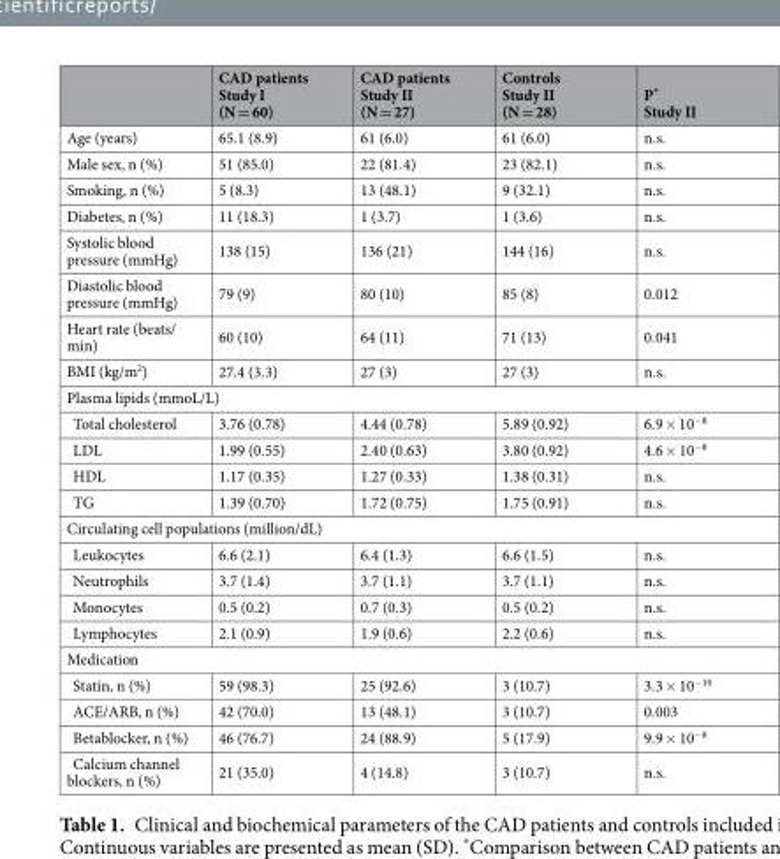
<table><thead><tr><td></td><td>CAD patients Study I (N = 60)</td><td>CAD patients Study II (N = 27)</td><td>Controls Study II (N = 28)</td><td>P* Study II</td></tr></thead><tbody><tr><td>Age (years)</td><td>65.1 (8.9)</td><td>61 (6.0)</td><td>61 (6.0)</td><td>n.s.</td></tr><tr><td>Male sex, n (%)</td><td>51 (85.0)</td><td>22 (81.4)</td><td>23 (82.1)</td><td>n.s.</td></tr><tr><td>Smoking, n (%)</td><td>5 (8.3)</td><td>13 (48.1)</td><td>9 (32.1)</td><td>n.s.</td></tr><tr><td>Diabetes, n (%)</td><td>11 (18.3)</td><td>1 (3.7)</td><td>1 (3.6)</td><td>n.s.</td></tr><tr><td>Systolic blood pressure (mmHg)</td><td>138 (15)</td><td>136 (21)</td><td>144 (16)</td><td>n.s.</td></tr><tr><td>Diastolic blood pressure (mmHg)</td><td>79 (9)</td><td>80 (10)</td><td>85 (8)</td><td>0.012</td></tr><tr><td>Heart rate (beats/ min)</td><td>60 (10)</td><td>64 (11)</td><td>71 (13)</td><td>0.041</td></tr><tr><td>BMI (kg/m<sup>2</sup>)</td><td>27.4 (3.3)</td><td>27 (3)</td><td>27 (3)</td><td>n.s.</td></tr><tr><td colspan="5">Plasma lipids (mmoL/L)</td></tr><tr><td>Total cholesterol</td><td>3.76 (0.78)</td><td>4.44 (0.78)</td><td>5.89 (0.92)</td><td>6.9 × 10<sup>−8</sup></td></tr><tr><td>LDL</td><td>1.99 (0.55)</td><td>2.40 (0.63)</td><td>3.80 (0.92)</td><td>4.6 × 10<sup>−8</sup></td></tr><tr><td>HDL</td><td>1.17 (0.35)</td><td>1.27 (0.33)</td><td>1.38 (0.31)</td><td>n.s.</td></tr><tr><td>TG</td><td>1.39 (0.70)</td><td>1.72 (0.75)</td><td>1.75 (0.91)</td><td>n.s.</td></tr><tr><td colspan="5">Circulating cell populations (million/dL)</td></tr><tr><td>Leukocytes</td><td>6.6 (2.1)</td><td>6.4 (1.3)</td><td>6.6 (1.5)</td><td>n.s.</td></tr><tr><td>Neutrophils</td><td>3.7 (1.4)</td><td>3.7 (1.1)</td><td>3.7 (1.1)</td><td>n.s.</td></tr><tr><td>Monocytes</td><td>0.5 (0.2)</td><td>0.7 (0.3)</td><td>0.5 (0.2)</td><td>n.s.</td></tr><tr><td>Lymphocytes</td><td>2.1 (0.9)</td><td>1.9 (0.6)</td><td>2.2 (0.6)</td><td>n.s.</td></tr><tr><td colspan="5">Medication</td></tr><tr><td>Statin, n (%)</td><td>59 (98.3)</td><td>25 (92.6)</td><td>3 (10.7)</td><td>3.3 × 10<sup>−10</sup></td></tr><tr><td>ACE/ARB, n (%)</td><td>42 (70.0)</td><td>13 (48.1)</td><td>3 (10.7)</td><td>0.003</td></tr><tr><td>Betablocker, n (%)</td><td>46 (76.7)</td><td>24 (88.9)</td><td>5 (17.9)</td><td>9.9 × 10<sup>−8</sup></td></tr><tr><td>Calcium channel blockers, n (%)</td><td>21 (35.0)</td><td>4 (14.8)</td><td>3 (10.7)</td><td>n.s.</td></tr></tbody></table>